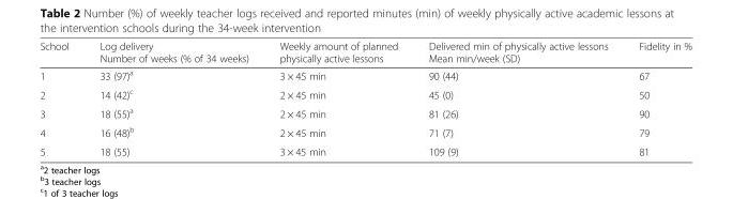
<table><thead><tr><td>School</td><td>Log delivery Number of weeks (% of 34 weeks)</td><td>Weekly amount of planned physically active lessons</td><td>Delivered min of physically active lessons Mean min/week (SD)</td><td>Fidelity in %</td></tr></thead><tbody><tr><td>1</td><td>33 (97)<sup>a</sup></td><td>3 × 45 min</td><td>90 (44)</td><td>67</td></tr><tr><td>2</td><td>14 (42)<sup>c</sup></td><td>2 × 45 min</td><td>45 (0)</td><td>50</td></tr><tr><td>3</td><td>18 (55)<sup>a</sup></td><td>2 × 45 min</td><td>81 (26)</td><td>90</td></tr><tr><td>4</td><td>16 (48)<sup>b</sup></td><td>2 × 45 min</td><td>71 (7)</td><td>79</td></tr><tr><td>5</td><td>18 (55)</td><td>3 × 45 min</td><td>109 (9)</td><td>81</td></tr></tbody></table>